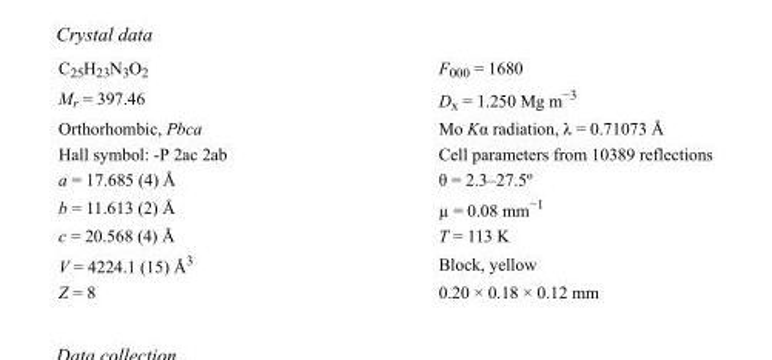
<table><tbody><tr><td>C<sub>25</sub>H<sub>23</sub>N<sub>3</sub>O<sub>2</sub></td><td>F000 = 1680</td></tr><tr><td>M<sub>r</sub> = 397.46</td><td>D<sub>x</sub> = 1.250 Mg m<sup>−3</sup></td></tr><tr><td>Orthorhombic, Pbca</td><td>Mo Kα radiation, λ = 0.71073 Å</td></tr><tr><td>Hall symbol: -P 2ac 2ab</td><td>Cell parameters from 10389 reflections</td></tr><tr><td>a = 17.685 (4) Å</td><td>θ = 2.3–27.5º</td></tr><tr><td>b = 11.613 (2) Å</td><td>µ = 0.08 mm<sup>−1</sup></td></tr><tr><td>c = 20.568 (4) Å</td><td>T = 113 K</td></tr><tr><td>V = 4224.1 (15) Å<sup>3</sup></td><td>Block, yellow</td></tr><tr><td>Z = 8</td><td>0.20 × 0.18 × 0.12 mm</td></tr></tbody></table>